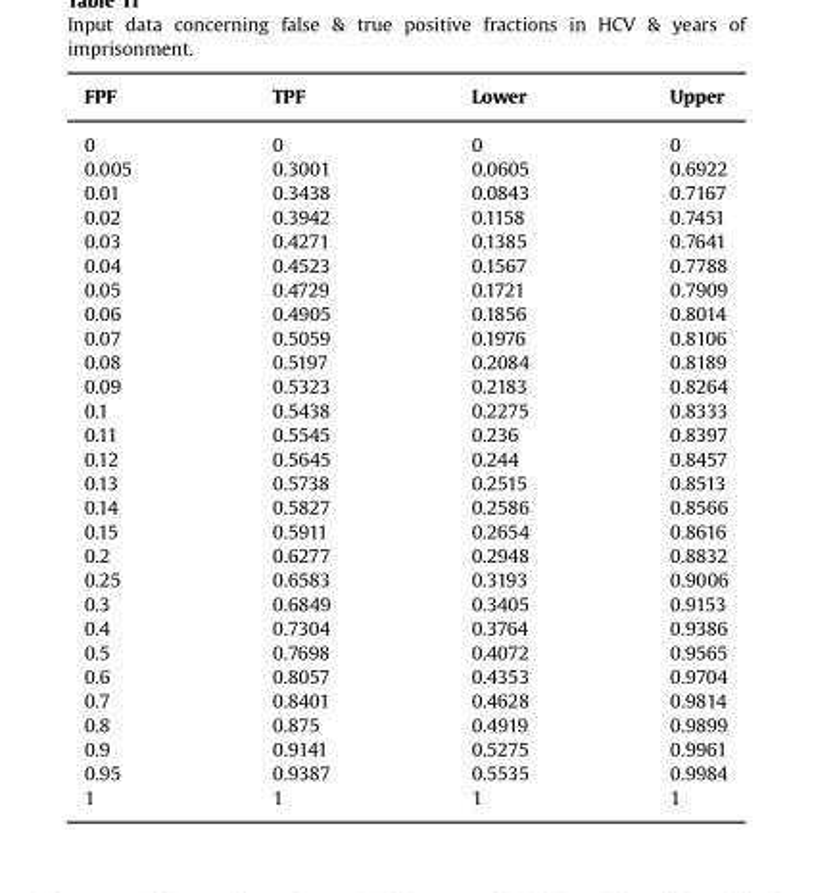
<table><thead><tr><td>FPF</td><td>TPF</td><td>Lower</td><td>Upper</td></tr></thead><tbody><tr><td>0</td><td>0</td><td>0</td><td>0</td></tr><tr><td>0.005</td><td>0.3001</td><td>0.0605</td><td>0.6922</td></tr><tr><td>0.01</td><td>0.3438</td><td>0.0843</td><td>0.7167</td></tr><tr><td>0.02</td><td>0.3942</td><td>0.1158</td><td>0.7451</td></tr><tr><td>0.03</td><td>0.4271</td><td>0.1385</td><td>0.7641</td></tr><tr><td>0.04</td><td>0.4523</td><td>0.1567</td><td>0.7788</td></tr><tr><td>0.05</td><td>0.4729</td><td>0.1721</td><td>0.7909</td></tr><tr><td>0.06</td><td>0.4905</td><td>0.1856</td><td>0.8014</td></tr><tr><td>0.07</td><td>0.5059</td><td>0.1976</td><td>0.8106</td></tr><tr><td>0.08</td><td>0.5197</td><td>0.2084</td><td>0.8189</td></tr><tr><td>0.09</td><td>0.5323</td><td>0.2183</td><td>0.8264</td></tr><tr><td>0.1</td><td>0.5438</td><td>0.2275</td><td>0.8333</td></tr><tr><td>0.11</td><td>0.5545</td><td>0.236</td><td>0.8397</td></tr><tr><td>0.12</td><td>0.5645</td><td>0.244</td><td>0.8457</td></tr><tr><td>0.13</td><td>0.5738</td><td>0.2515</td><td>0.8513</td></tr><tr><td>0.14</td><td>0.5827</td><td>0.2586</td><td>0.8566</td></tr><tr><td>0.15</td><td>0.5911</td><td>0.2654</td><td>0.8616</td></tr><tr><td>0.2</td><td>0.6277</td><td>0.2948</td><td>0.8832</td></tr><tr><td>0.25</td><td>0.6583</td><td>0.3193</td><td>0.9006</td></tr><tr><td>0.3</td><td>0.6849</td><td>0.3405</td><td>0.9153</td></tr><tr><td>0.4</td><td>0.7304</td><td>0.3764</td><td>0.9386</td></tr><tr><td>0.5</td><td>0.7698</td><td>0.4072</td><td>0.9565</td></tr><tr><td>0.6</td><td>0.8057</td><td>0.4353</td><td>0.9704</td></tr><tr><td>0.7</td><td>0.8401</td><td>0.4628</td><td>0.9814</td></tr><tr><td>0.8</td><td>0.875</td><td>0.4919</td><td>0.9899</td></tr><tr><td>0.9</td><td>0.9141</td><td>0.5275</td><td>0.9961</td></tr><tr><td>0.95</td><td>0.9387</td><td>0.5535</td><td>0.9984</td></tr><tr><td>1</td><td>1</td><td>1</td><td>1</td></tr></tbody></table>